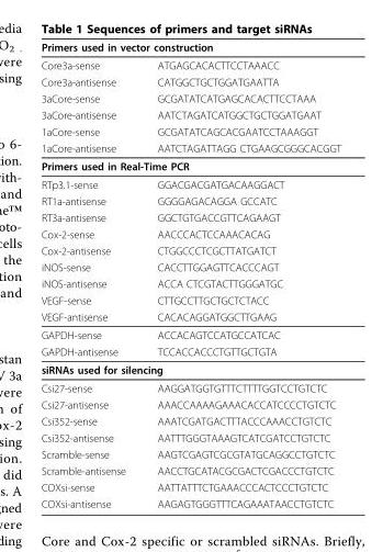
<table><thead><tr><td colspan="2">Primers used in vector construction</td></tr><tr><td>Core3a-sense</td><td>ATGAGCACACTTCCTAAACC</td></tr></thead><tbody><tr><td>Core3a-antisense</td><td>CATGGCTGCTGGATGAATTA</td></tr><tr><td>3aCore-sense</td><td>GCGATATCATGAGCACACTTCCTAAA</td></tr><tr><td>3aCore-antisense</td><td>AATCTAGATCATGGCTGCTGGATGAAT</td></tr><tr><td>1aCore-sense</td><td>GCGATATCAGCACGAATCCTAAAGGT</td></tr><tr><td>1aCore-antisense</td><td>AATCTAGATTAGG CTGAAGCGGGCACGGT</td></tr><tr><td colspan="2">Primers used in Real-Time PCR</td></tr><tr><td>RTp3.1-sense</td><td>GGACGACGATGACAAGGACT</td></tr><tr><td>RT1a-antisense</td><td>GGGGAGACAGGA GCCATC</td></tr><tr><td>RT3a-antisense</td><td>GGCTGTGACCGTTCAGAAGT</td></tr><tr><td>Cox-2-sense</td><td>AACCCACTCCAAACACAG</td></tr><tr><td>Cox-2-antisense</td><td>CTGGCCCTCGCTTATGATCT</td></tr><tr><td>iNOS-sense</td><td>CACCTTGGAGTTCACCCAGT</td></tr><tr><td>iNOS-antisense</td><td>ACCA CTCGTACTTGGGATGC</td></tr><tr><td>VEGF-sense</td><td>CTTGCCTTGCTGCTCTACC</td></tr><tr><td>VEGF-antisense</td><td>CACACAGGATGGCTTGAAG</td></tr><tr><td>GAPDH-sense</td><td>ACCACAGTCCATGCCATCAC</td></tr><tr><td>GAPDH-antisense</td><td>TCCACCACCCTGTTGCTGTA</td></tr><tr><td colspan="2">siRNAs used for silencing</td></tr><tr><td>Csi27-sense</td><td>AAGGATGGTGTTTCTTTTGGTCCTGTCTC</td></tr><tr><td>Csi27-antisense</td><td>AAACCAAAAGAAACACCATCCCCTGTCTC</td></tr><tr><td>Csi352-sense</td><td>AAATCGATGACTTTACCCAAACCTGTCTC</td></tr><tr><td>Csi352-antisense</td><td>AATTTGGGTAAAGTCATCGATCCTGTCTC</td></tr><tr><td>Scramble-sense</td><td>AAGTCGAGTCGCGTATGCAGGCCTGTCTC</td></tr><tr><td>Scramble-antisense</td><td>AACCTGCATACGCGACTCGACCCTGTCTC</td></tr><tr><td>COXsi-sense</td><td>AATTATTTCTGAAACCCACTCCCTGTCTC</td></tr><tr><td>COXsi-antisense</td><td>AAGAGTGGGTTTCAGAAATAACCTGTCTC</td></tr></tbody></table>